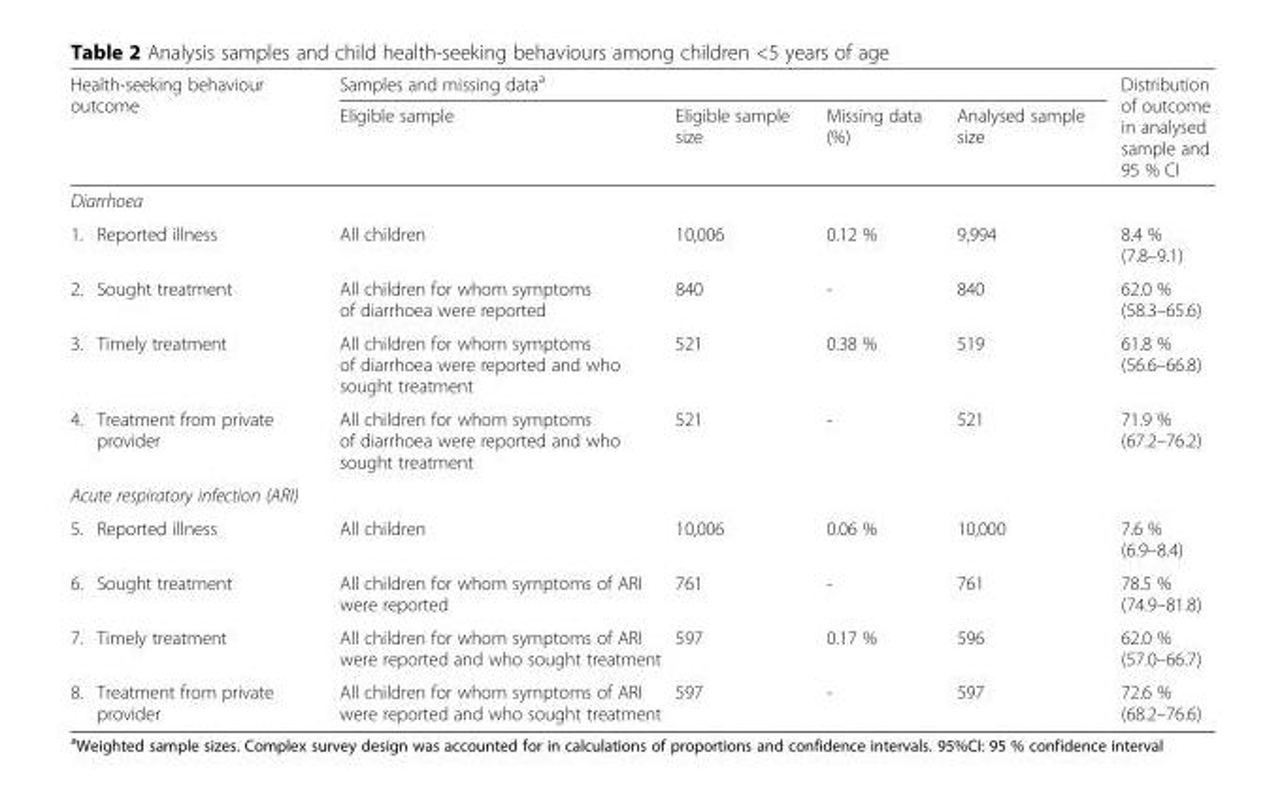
<table><thead><tr><td rowspan="2" colspan="2">Health-seeking behaviour outcome</td><td colspan="4">Samples and missing data<sup>a</sup></td><td rowspan="2">Distribution of outcome in analysed sample and 95 % CI</td></tr><tr><td>Eligible sample</td><td>Eligible sample size</td><td>Missing data (%)</td><td>Analysed sample size</td></tr><tr><td colspan="7">Diarrhoea</td></tr><tr><td>1.</td><td>Reported illness</td><td>All children</td><td>10,006</td><td>0.12 %</td><td>9,994</td><td>8.4 % (7.8–9.1)</td></tr></thead><tbody><tr><td>2.</td><td>Sought treatment</td><td>All children for whom symptoms of diarrhoea were reported</td><td>840</td><td>-</td><td>840</td><td>62.0 % (58.3–65.6)</td></tr><tr><td>3.</td><td>Timely treatment</td><td>All children for whom symptoms of diarrhoea were reported and who sought treatment</td><td>521</td><td>0.38 %</td><td>519</td><td>61.8 % (56.6–66.8)</td></tr><tr><td>4.</td><td>Treatment from private provider</td><td>All children for whom symptoms of diarrhoea were reported and who sought treatment</td><td>521</td><td>-</td><td>521</td><td>71.9 % (67.2–76.2)</td></tr><tr><td colspan="7">Acute respiratory infection (ARI)</td></tr><tr><td>5.</td><td>Reported illness</td><td>All children</td><td>10,006</td><td>0.06 %</td><td>10,000</td><td>7.6 % (6.9–8.4)</td></tr><tr><td>6.</td><td>Sought treatment</td><td>All children for whom symptoms of ARI were reported</td><td>761</td><td>-</td><td>761</td><td>78.5 % (74.9–81.8)</td></tr><tr><td>7.</td><td>Timely treatment</td><td>All children for whom symptoms of ARI were reported and who sought treatment</td><td>597</td><td>0.17 %</td><td>596</td><td>62.0 % (57.0–66.7)</td></tr><tr><td>8.</td><td>Treatment from private provider</td><td>All children for whom symptoms of ARI were reported and who sought treatment</td><td>597</td><td>-</td><td>597</td><td>72.6 % (68.2–76.6)</td></tr></tbody></table>